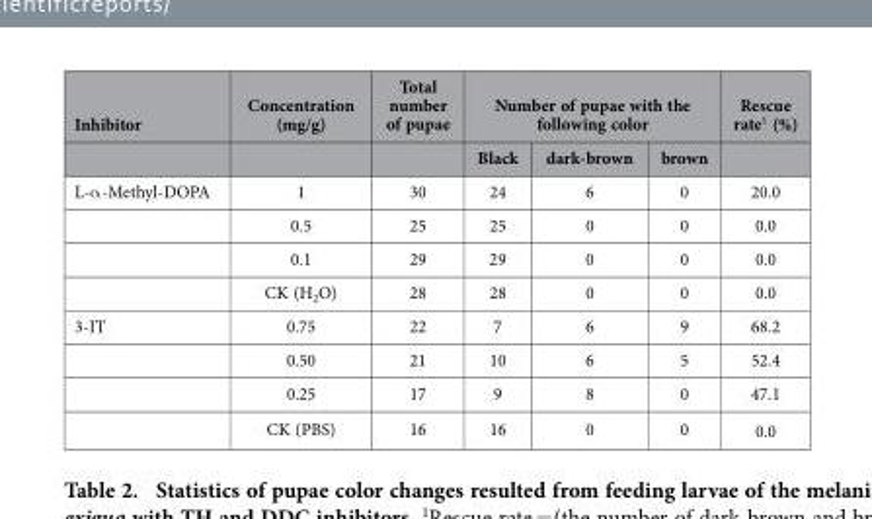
<table><thead><tr><td rowspan="2">Inhibitor</td><td rowspan="2">Concentration (mg/g)</td><td rowspan="2">Total number of pupae</td><td colspan="3">Number of pupae with the following color</td><td rowspan="2">Rescue rate<sup>1</sup> (%)</td></tr><tr><td>Black</td><td>dark-brown</td><td>brown</td></tr></thead><tbody><tr><td rowspan="4">L-α -Methyl-DOPA</td><td>1</td><td>30</td><td>24</td><td>6</td><td>0</td><td>20.0</td></tr><tr><td>0.5</td><td>25</td><td>25</td><td>0</td><td>0</td><td>0.0</td></tr><tr><td>0.1</td><td>29</td><td>29</td><td>0</td><td>0</td><td>0.0</td></tr><tr><td>CK (H<sub>2</sub>O)</td><td>28</td><td>28</td><td>0</td><td>0</td><td>0.0</td></tr><tr><td rowspan="4">3-IT</td><td>0.75</td><td>22</td><td>7</td><td>6</td><td>9</td><td>68.2</td></tr><tr><td>0.50</td><td>21</td><td>10</td><td>6</td><td>5</td><td>52.4</td></tr><tr><td>0.25</td><td>17</td><td>9</td><td>8</td><td>0</td><td>47.1</td></tr><tr><td>CK (PBS)</td><td>16</td><td>16</td><td>0</td><td>0</td><td>0.0</td></tr></tbody></table>